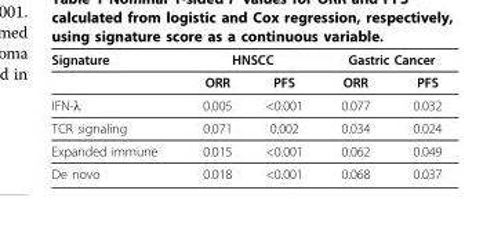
<table><thead><tr><td rowspan="2">Signature</td><td colspan="2">HNSCC</td><td colspan="2">Gastric Cancer</td></tr><tr><td>ORR</td><td>PFS</td><td>ORR</td><td>PFS</td></tr></thead><tbody><tr><td>IFN-λ</td><td>0.005</td><td>&lt;0.001</td><td>0.077</td><td>0.032</td></tr><tr><td>TCR signaling</td><td>0.071</td><td>0.002</td><td>0.034</td><td>0.024</td></tr><tr><td>Expanded immune</td><td>0.015</td><td>&lt;0.001</td><td>0.062</td><td>0.049</td></tr><tr><td>De novo</td><td>0.018</td><td>&lt;0.001</td><td>0.068</td><td>0.037</td></tr></tbody></table>